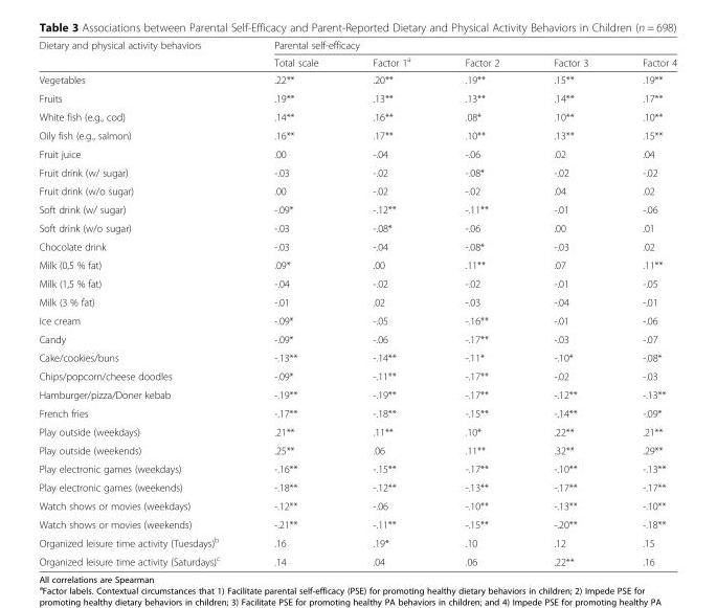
<table><thead><tr><td rowspan="2">Dietary and physical activity behaviors</td><td colspan="5">Parental self-efficacy</td></tr><tr><td>Total scale</td><td>Factor 1<sup>a</sup></td><td>Factor 2</td><td>Factor 3</td><td>Factor 4</td></tr></thead><tbody><tr><td>Vegetables</td><td>.22**</td><td>.20**</td><td>.19**</td><td>.15**</td><td>.19**</td></tr><tr><td>Fruits</td><td>.19**</td><td>.13**</td><td>.13**</td><td>.14**</td><td>.17**</td></tr><tr><td>White fish (e.g., cod)</td><td>.14**</td><td>.16**</td><td>.08*</td><td>.10**</td><td>.10**</td></tr><tr><td>Oily fish (e.g., salmon)</td><td>.16**</td><td>.17**</td><td>.10**</td><td>.13**</td><td>.15**</td></tr><tr><td>Fruit juice</td><td>.00</td><td>-.04</td><td>-.06</td><td>.02</td><td>.04</td></tr><tr><td>Fruit drink (w/ sugar)</td><td>-.03</td><td>-.02</td><td>-.08*</td><td>-.02</td><td>-.02</td></tr><tr><td>Fruit drink (w/o sugar)</td><td>.00</td><td>-.02</td><td>-.02</td><td>.04</td><td>.02</td></tr><tr><td>Soft drink (w/ sugar)</td><td>-.09*</td><td>-.12**</td><td>-.11**</td><td>-.01</td><td>-.06</td></tr><tr><td>Soft drink (w/o sugar)</td><td>-.03</td><td>-.08*</td><td>-.06</td><td>.00</td><td>.01</td></tr><tr><td>Chocolate drink</td><td>-.03</td><td>-.04</td><td>-.08*</td><td>-.03</td><td>.02</td></tr><tr><td>Milk (0,5 % fat)</td><td>.09*</td><td>.00</td><td>.11**</td><td>.07</td><td>.11**</td></tr><tr><td>Milk (1,5 % fat)</td><td>-.04</td><td>-.02</td><td>-.02</td><td>-.01</td><td>-.05</td></tr><tr><td>Milk (3 % fat)</td><td>-.01</td><td>.02</td><td>-.03</td><td>-.04</td><td>-.01</td></tr><tr><td>Ice cream</td><td>-.09*</td><td>-.05</td><td>-.16**</td><td>-.01</td><td>-.06</td></tr><tr><td>Candy</td><td>-.09*</td><td>-.06</td><td>-.17**</td><td>-.03</td><td>-.07</td></tr><tr><td>Cake/cookies/buns</td><td>-.13**</td><td>-.14**</td><td>-.11*</td><td>-.10*</td><td>-.08*</td></tr><tr><td>Chips/popcorn/cheese doodles</td><td>-.09*</td><td>-.11**</td><td>-.17**</td><td>-.02</td><td>-.03</td></tr><tr><td>Hamburger/pizza/Doner kebab</td><td>-.19**</td><td>-.19**</td><td>-.17**</td><td>-.12**</td><td>-.13**</td></tr><tr><td>French fries</td><td>-.17**</td><td>-.18**</td><td>-.15**</td><td>-.14**</td><td>-.09*</td></tr><tr><td>Play outside (weekdays)</td><td>.21**</td><td>.11**</td><td>.10*</td><td>.22**</td><td>.21**</td></tr><tr><td>Play outside (weekends)</td><td>.25**</td><td>.06</td><td>.11**</td><td>.32**</td><td>.29**</td></tr><tr><td>Play electronic games (weekdays)</td><td>-.16**</td><td>-.15**</td><td>-.17**</td><td>-.10**</td><td>-.13**</td></tr><tr><td>Play electronic games (weekends)</td><td>-.18**</td><td>-.12**</td><td>-.13**</td><td>-.17**</td><td>-.17**</td></tr><tr><td>Watch shows or movies (weekdays)</td><td>-.12**</td><td>-.06</td><td>-.10**</td><td>-.13**</td><td>-.10**</td></tr><tr><td>Watch shows or movies (weekends)</td><td>-.21**</td><td>-.11**</td><td>-.15**</td><td>-.20**</td><td>-.18**</td></tr><tr><td>Organized leisure time activity (Tuesdays)<sup>b</sup></td><td>.16</td><td>.19*</td><td>.10</td><td>.12</td><td>.15</td></tr><tr><td>Organized leisure time activity (Saturdays)<sup>c</sup></td><td>.14</td><td>.04</td><td>.06</td><td>.22**</td><td>.16</td></tr></tbody></table>